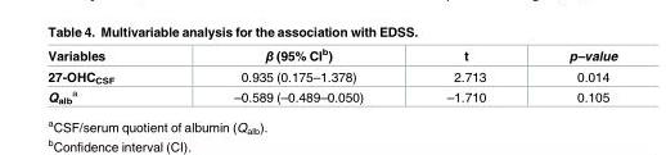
<table><thead><tr><td>Variables</td><td>β (95% CI<sup>b</sup>)</td><td>t</td><td>p–value</td></tr></thead><tbody><tr><td>27-OHC<sub>CSF</sub></td><td>0.935 (0.175–1.378)</td><td>2.713</td><td>0.014</td></tr><tr><td>Q<sub>alb</sub> <sup>a</sup></td><td>–0.589 (–0.489–0.050)</td><td>–1.710</td><td>0.105</td></tr></tbody></table>